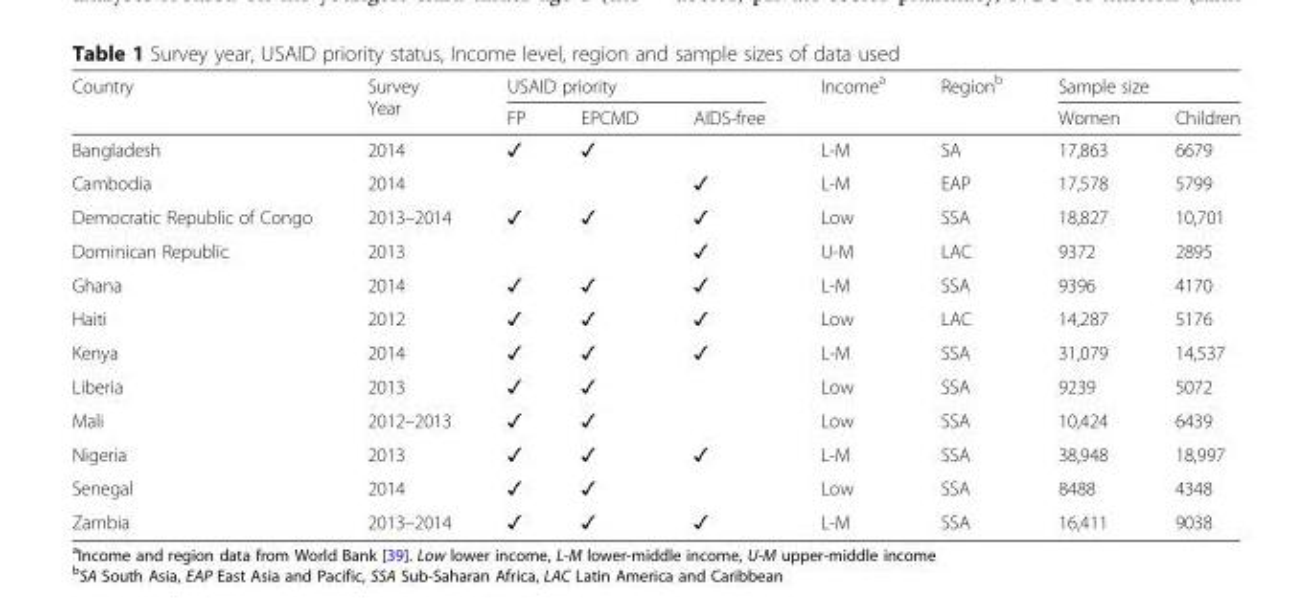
<table><thead><tr><td rowspan="2">Country</td><td rowspan="2">Survey Year</td><td colspan="3">USAID priority</td><td rowspan="2">Income<sup>a</sup></td><td rowspan="2">Region<sup>b</sup></td><td colspan="2">Sample size</td></tr><tr><td>FP</td><td>EPCMD</td><td>AIDS-free</td><td>Women</td><td>Children</td></tr></thead><tbody><tr><td>Bangladesh</td><td>2014</td><td>✓</td><td>✓</td><td></td><td>L-M</td><td>SA</td><td>17,863</td><td>6679</td></tr><tr><td>Cambodia</td><td>2014</td><td></td><td></td><td>✓</td><td>L-M</td><td>EAP</td><td>17,578</td><td>5799</td></tr><tr><td>Democratic Republic of Congo</td><td>2013–2014</td><td>✓</td><td>✓</td><td>✓</td><td>Low</td><td>SSA</td><td>18,827</td><td>10,701</td></tr><tr><td>Dominican Republic</td><td>2013</td><td></td><td></td><td>✓</td><td>U-M</td><td>LAC</td><td>9372</td><td>2895</td></tr><tr><td>Ghana</td><td>2014</td><td>✓</td><td>✓</td><td>✓</td><td>L-M</td><td>SSA</td><td>9396</td><td>4170</td></tr><tr><td>Haiti</td><td>2012</td><td>✓</td><td>✓</td><td>✓</td><td>Low</td><td>LAC</td><td>14,287</td><td>5176</td></tr><tr><td>Kenya</td><td>2014</td><td>✓</td><td>✓</td><td>✓</td><td>L-M</td><td>SSA</td><td>31,079</td><td>14,537</td></tr><tr><td>Liberia</td><td>2013</td><td>✓</td><td>✓</td><td></td><td>Low</td><td>SSA</td><td>9239</td><td>5072</td></tr><tr><td>Mali</td><td>2012–2013</td><td>✓</td><td>✓</td><td></td><td>Low</td><td>SSA</td><td>10,424</td><td>6439</td></tr><tr><td>Nigeria</td><td>2013</td><td>✓</td><td>✓</td><td>✓</td><td>L-M</td><td>SSA</td><td>38,948</td><td>18,997</td></tr><tr><td>Senegal</td><td>2014</td><td>✓</td><td>✓</td><td></td><td>Low</td><td>SSA</td><td>8488</td><td>4348</td></tr><tr><td>Zambia</td><td>2013–2014</td><td>✓</td><td>✓</td><td>✓</td><td>L-M</td><td>SSA</td><td>16,411</td><td>9038</td></tr></tbody></table>